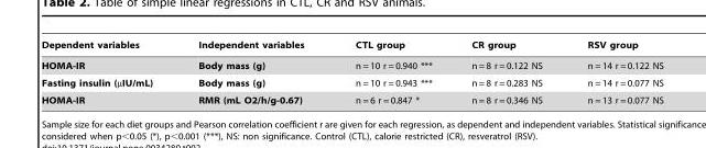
<table><thead><tr><td>Dependent variables</td><td>Independent variables</td><td>CTL group</td><td>CR group</td><td>RSV group</td></tr></thead><tbody><tr><td>HOMA-IR</td><td>Body mass (g)</td><td>n = 10 r = 0.940 ***</td><td>n = 8 r = 0.122 NS</td><td>n = 14 r = 0.122 NS</td></tr><tr><td>Fasting insulin (µIU/mL)</td><td>Body mass (g)</td><td>n = 10 r = 0.943 ***</td><td>n = 8 r = 0.283 NS</td><td>n = 14 r = 0.077 NS</td></tr><tr><td>HOMA-IR</td><td>RMR (mL O2/h/g-0.67)</td><td>n = 6 r = 0.847 *</td><td>n = 8 r = 0.346 NS</td><td>n = 13 r = 0.077 NS</td></tr></tbody></table>